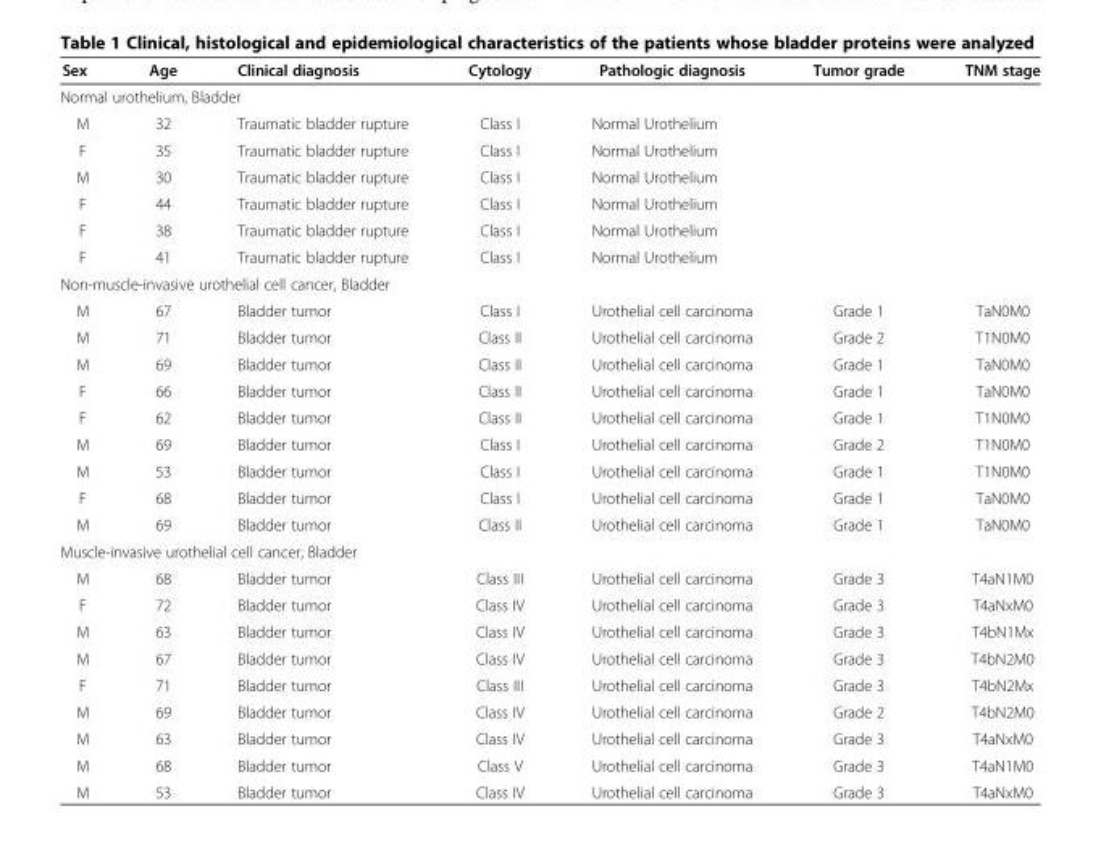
<table><thead><tr><td>Sex</td><td>Age</td><td>Clinical diagnosis</td><td>Cytology</td><td>Pathologic diagnosis</td><td>Tumor grade</td><td>TNM stage</td></tr></thead><tbody><tr><td colspan="7">Normal urothelium, Bladder</td></tr><tr><td>M</td><td>32</td><td>Traumatic bladder rupture</td><td>Class I</td><td>Normal Urothelium</td><td></td><td></td></tr><tr><td>F</td><td>35</td><td>Traumatic bladder rupture</td><td>Class I</td><td>Normal Urothelium</td><td></td><td></td></tr><tr><td>M</td><td>30</td><td>Traumatic bladder rupture</td><td>Class I</td><td>Normal Urothelium</td><td></td><td></td></tr><tr><td>F</td><td>44</td><td>Traumatic bladder rupture</td><td>Class I</td><td>Normal Urothelium</td><td></td><td></td></tr><tr><td>F</td><td>38</td><td>Traumatic bladder rupture</td><td>Class I</td><td>Normal Urothelium</td><td></td><td></td></tr><tr><td>F</td><td>41</td><td>Traumatic bladder rupture</td><td>Class I</td><td>Normal Urothelium</td><td></td><td></td></tr><tr><td colspan="7">Non-muscle-invasive urothelial cell cancer, Bladder</td></tr><tr><td>M</td><td>67</td><td>Bladder tumor</td><td>Class I</td><td>Urothelial cell carcinoma</td><td>Grade 1</td><td>TaN0M0</td></tr><tr><td>M</td><td>71</td><td>Bladder tumor</td><td>Class II</td><td>Urothelial cell carcinoma</td><td>Grade 2</td><td>T1N0M0</td></tr><tr><td>M</td><td>69</td><td>Bladder tumor</td><td>Class II</td><td>Urothelial cell carcinoma</td><td>Grade 1</td><td>TaN0M0</td></tr><tr><td>F</td><td>66</td><td>Bladder tumor</td><td>Class II</td><td>Urothelial cell carcinoma</td><td>Grade 1</td><td>TaN0M0</td></tr><tr><td>F</td><td>62</td><td>Bladder tumor</td><td>Class II</td><td>Urothelial cell carcinoma</td><td>Grade 1</td><td>T1N0M0</td></tr><tr><td>M</td><td>69</td><td>Bladder tumor</td><td>Class I</td><td>Urothelial cell carcinoma</td><td>Grade 2</td><td>T1N0M0</td></tr><tr><td>M</td><td>53</td><td>Bladder tumor</td><td>Class I</td><td>Urothelial cell carcinoma</td><td>Grade 1</td><td>T1N0M0</td></tr><tr><td>F</td><td>68</td><td>Bladder tumor</td><td>Class I</td><td>Urothelial cell carcinoma</td><td>Grade 1</td><td>TaN0M0</td></tr><tr><td>M</td><td>69</td><td>Bladder tumor</td><td>Class II</td><td>Urothelial cell carcinoma</td><td>Grade 1</td><td>TaN0M0</td></tr><tr><td colspan="7">Muscle-invasive urothelial cell cancer, Bladder</td></tr><tr><td>M</td><td>68</td><td>Bladder tumor</td><td>Class III</td><td>Urothelial cell carcinoma</td><td>Grade 3</td><td>T4aN1M0</td></tr><tr><td>F</td><td>72</td><td>Bladder tumor</td><td>Class IV</td><td>Urothelial cell carcinoma</td><td>Grade 3</td><td>T4aNxM0</td></tr><tr><td>M</td><td>63</td><td>Bladder tumor</td><td>Class IV</td><td>Urothelial cell carcinoma</td><td>Grade 3</td><td>T4bN1Mx</td></tr><tr><td>M</td><td>67</td><td>Bladder tumor</td><td>Class IV</td><td>Urothelial cell carcinoma</td><td>Grade 3</td><td>T4bN2M0</td></tr><tr><td>F</td><td>71</td><td>Bladder tumor</td><td>Class III</td><td>Urothelial cell carcinoma</td><td>Grade 3</td><td>T4bN2Mx</td></tr><tr><td>M</td><td>69</td><td>Bladder tumor</td><td>Class IV</td><td>Urothelial cell carcinoma</td><td>Grade 2</td><td>T4bN2M0</td></tr><tr><td>M</td><td>63</td><td>Bladder tumor</td><td>Class IV</td><td>Urothelial cell carcinoma</td><td>Grade 3</td><td>T4aNxM0</td></tr><tr><td>M</td><td>68</td><td>Bladder tumor</td><td>Class V</td><td>Urothelial cell carcinoma</td><td>Grade 3</td><td>T4aN1M0</td></tr><tr><td>M</td><td>53</td><td>Bladder tumor</td><td>Class IV</td><td>Urothelial cell carcinoma</td><td>Grade 3</td><td>T4aNxM0</td></tr></tbody></table>